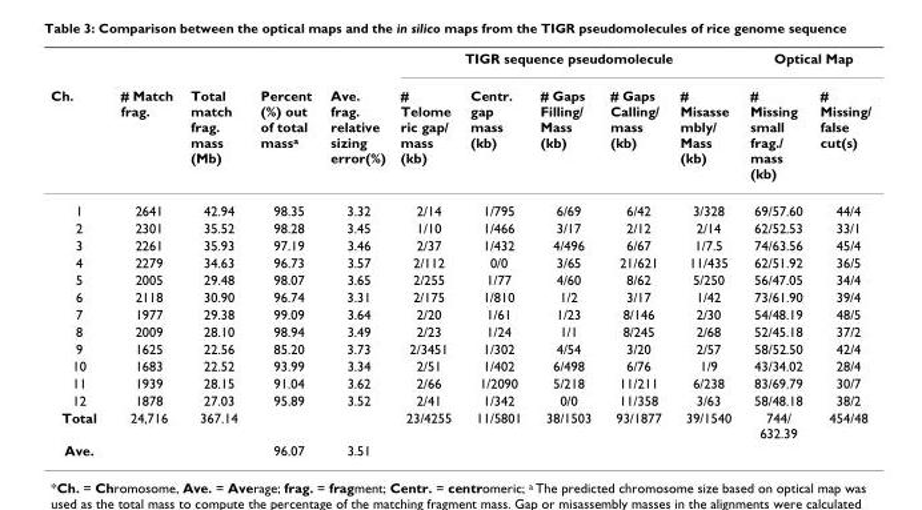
<table><thead><tr><td rowspan="2">Ch.</td><td rowspan="2"># Match frag.</td><td rowspan="2">Total match frag. mass (Mb)</td><td rowspan="2">Percent (%) out of total mass<sup>a</sup></td><td rowspan="2">Ave. frag. relative sizing error(%)</td><td colspan="5">TIGR sequence pseudomolecule</td><td colspan="2">Optical Map</td></tr><tr><td># Telome ric gap/ mass (kb)</td><td>Centr. gap mass (kb)</td><td># Gaps Filling/ Mass (kb)</td><td># Gaps Calling/ mass (kb)</td><td># Misasse mbly/ Mass (kb)</td><td># Missing small frag./ mass (kb)</td><td># Missing/ false cut(s)</td></tr></thead><tbody><tr><td>1</td><td>2641</td><td>42.94</td><td>98.35</td><td>3.32</td><td>2/14</td><td>1/795</td><td>6/69</td><td>6/42</td><td>3/328</td><td>69/57.60</td><td>44/4</td></tr><tr><td>2</td><td>2301</td><td>35.52</td><td>98.28</td><td>3.45</td><td>1/10</td><td>1/466</td><td>3/17</td><td>2/12</td><td>2/14</td><td>62/52.53</td><td>33/1</td></tr><tr><td>3</td><td>2261</td><td>35.93</td><td>97.19</td><td>3.46</td><td>2/37</td><td>1/432</td><td>4/496</td><td>6/67</td><td>1/7.5</td><td>74/63.56</td><td>45/4</td></tr><tr><td>4</td><td>2279</td><td>34.63</td><td>96.73</td><td>3.57</td><td>2/112</td><td>0/0</td><td>3/65</td><td>21/621</td><td>11/435</td><td>62/51.92</td><td>36/5</td></tr><tr><td>5</td><td>2005</td><td>29.48</td><td>98.07</td><td>3.65</td><td>2/255</td><td>1/77</td><td>4/60</td><td>8/62</td><td>5/250</td><td>56/47.05</td><td>34/4</td></tr><tr><td>6</td><td>2118</td><td>30.90</td><td>96.74</td><td>3.31</td><td>2/175</td><td>1/810</td><td>1/2</td><td>3/17</td><td>1/42</td><td>73/61.90</td><td>39/4</td></tr><tr><td>7</td><td>1977</td><td>29.38</td><td>99.09</td><td>3.64</td><td>2/20</td><td>1/61</td><td>1/23</td><td>8/146</td><td>2/30</td><td>54/48.19</td><td>48/5</td></tr><tr><td>8</td><td>2009</td><td>28.10</td><td>98.94</td><td>3.49</td><td>2/23</td><td>1/24</td><td>1/1</td><td>8/245</td><td>2/68</td><td>52/45.18</td><td>37/2</td></tr><tr><td>9</td><td>1625</td><td>22.56</td><td>85.20</td><td>3.73</td><td>2/3451</td><td>1/302</td><td>4/54</td><td>3/20</td><td>2/57</td><td>58/52.50</td><td>42/4</td></tr><tr><td>10</td><td>1683</td><td>22.52</td><td>93.99</td><td>3.34</td><td>2/51</td><td>1/402</td><td>6/498</td><td>6/76</td><td>1/9</td><td>43/34.02</td><td>28/4</td></tr><tr><td>11</td><td>1939</td><td>28.15</td><td>91.04</td><td>3.62</td><td>2/66</td><td>1/2090</td><td>5/218</td><td>11/211</td><td>6/238</td><td>83/69.79</td><td>30/7</td></tr><tr><td>12</td><td>1878</td><td>27.03</td><td>95.89</td><td>3.52</td><td>2/41</td><td>1/342</td><td>0/0</td><td>11/358</td><td>3/63</td><td>58/48.18</td><td>38/2</td></tr><tr><td>Total</td><td>24,716</td><td>367.14</td><td></td><td></td><td>23/4255</td><td>11/5801</td><td>38/1503</td><td>93/1877</td><td>39/1540</td><td>744/ 632.39</td><td>454/48</td></tr><tr><td>Ave.</td><td></td><td></td><td>96.07</td><td>3.51</td><td></td><td></td><td></td><td></td><td></td><td></td><td></td></tr></tbody></table>